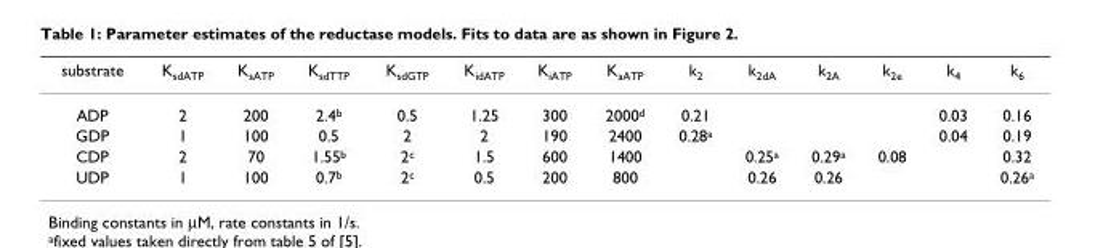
<table><thead><tr><td>substrate</td><td>K<sub>sdATP</sub></td><td>K<sub>sATP</sub></td><td>K<sub>sdTTP</sub></td><td>K<sub>sdGTP</sub></td><td>K<sub>idATP</sub></td><td>K<sub>iATP</sub></td><td>K<sub>aATP</sub></td><td>k<sub>2</sub></td><td>k<sub>2dA</sub></td><td>k<sub>2A</sub></td><td>k<sub>2e</sub></td><td>k<sub>4</sub></td><td>k<sub>6</sub></td></tr></thead><tbody><tr><td>ADP</td><td>2</td><td>200</td><td>2.4<sup>b</sup></td><td>0.5</td><td>1.25</td><td>300</td><td>2000<sup>d</sup></td><td>0.21</td><td></td><td></td><td></td><td>0.03</td><td>0.16</td></tr><tr><td>GDP</td><td>1</td><td>100</td><td>0.5</td><td>2</td><td>2</td><td>190</td><td>2400</td><td>0.28<sup>a</sup></td><td></td><td></td><td></td><td>0.04</td><td>0.19</td></tr><tr><td>CDP</td><td>2</td><td>70</td><td>1.55<sup>b</sup></td><td>2<sup>c</sup></td><td>1.5</td><td>600</td><td>1400</td><td></td><td>0.25<sup>a</sup></td><td>0.29<sup>a</sup></td><td>0.08</td><td></td><td>0.32</td></tr><tr><td>UDP</td><td>1</td><td>100</td><td>0.7<sup>b</sup></td><td>2<sup>c</sup></td><td>0.5</td><td>200</td><td>800</td><td></td><td>0.26</td><td>0.26</td><td></td><td></td><td>0.26<sup>a</sup></td></tr></tbody></table>